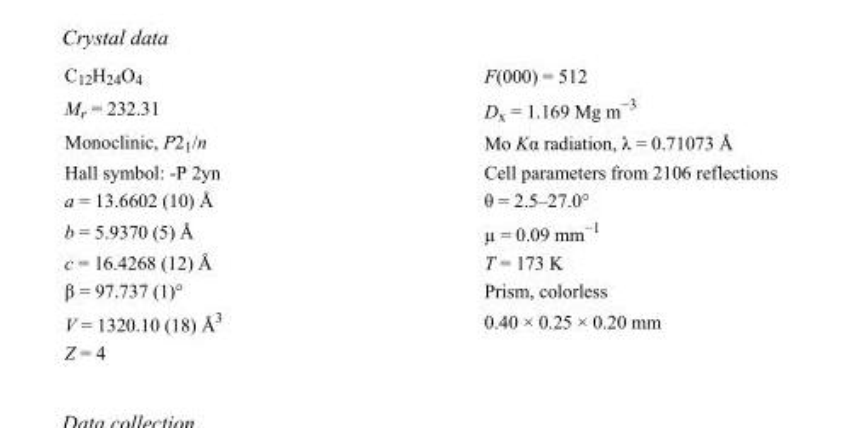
<table><tbody><tr><td>C<sub>12</sub>H<sub>24</sub>O<sub>4</sub></td><td>F(000) = 512</td></tr><tr><td>M<sub>r</sub> = 232.31</td><td>D<sub>x</sub> = 1.169 Mg m<sup>−3</sup></td></tr><tr><td>Monoclinic, P2<sub>1</sub>/n</td><td>Mo Kα radiation, λ = 0.71073 Å</td></tr><tr><td>Hall symbol: -P 2yn</td><td>Cell parameters from 2106 reflections</td></tr><tr><td>a = 13.6602 (10) Å</td><td>θ = 2.5–27.0°</td></tr><tr><td>b = 5.9370 (5) Å</td><td>µ = 0.09 mm<sup>−1</sup></td></tr><tr><td>c = 16.4268 (12) Å</td><td>T = 173 K</td></tr><tr><td>β = 97.737 (1)°</td><td>Prism, colorless</td></tr><tr><td>V = 1320.10 (18) Å<sup>3</sup></td><td>0.40 × 0.25 × 0.20 mm</td></tr><tr><td>Z = 4</td><td></td></tr></tbody></table>